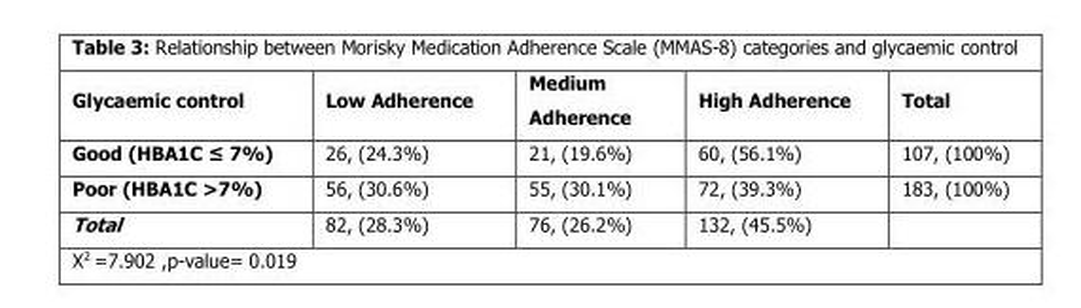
<table><thead><tr><td>Glycaemic control</td><td>Low Adherence</td><td>Medium Adherence</td><td>High Adherence</td><td>Total</td></tr></thead><tbody><tr><td>Good (HBA1C ≤ 7%)</td><td>26, (24.3%)</td><td>21, (19.6%)</td><td>60, (56.1%)</td><td>107, (100%)</td></tr><tr><td>Poor (HBA1C &gt;7%)</td><td>56, (30.6%)</td><td>55, (30.1%)</td><td>72, (39.3%)</td><td>183, (100%)</td></tr><tr><td>Total</td><td>82, (28.3%)</td><td>76, (26.2%)</td><td>132, (45.5%)</td><td></td></tr></tbody></table>